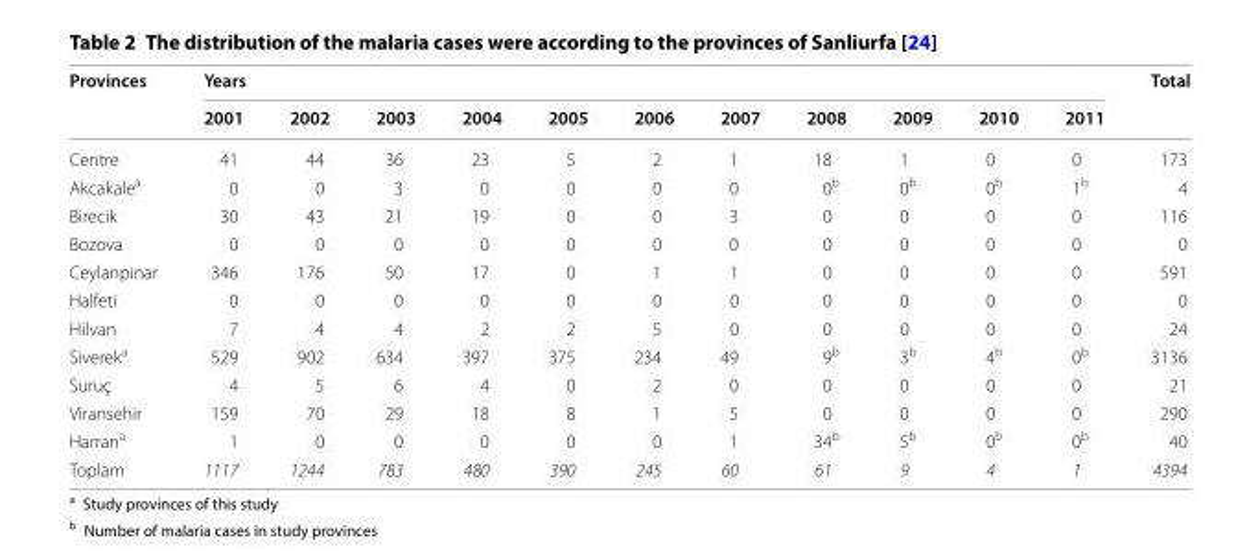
<table><thead><tr><td rowspan="2">Provinces</td><td colspan="11">Years</td><td rowspan="2">Total</td></tr><tr><td>2001</td><td>2002</td><td>2003</td><td>2004</td><td>2005</td><td>2006</td><td>2007</td><td>2008</td><td>2009</td><td>2010</td><td>2011</td></tr></thead><tbody><tr><td>Centre</td><td>41</td><td>44</td><td>36</td><td>23</td><td>5</td><td>2</td><td>1</td><td>18</td><td>1</td><td>0</td><td>0</td><td>173</td></tr><tr><td>Akcakale<sup>a</sup></td><td>0</td><td>0</td><td>3</td><td>0</td><td>0</td><td>0</td><td>0</td><td>0<sup>b</sup></td><td>0<sup>b</sup></td><td>0<sup>b</sup></td><td>1<sup>b</sup></td><td>4</td></tr><tr><td>Birecik</td><td>30</td><td>43</td><td>21</td><td>19</td><td>0</td><td>0</td><td>3</td><td>0</td><td>0</td><td>0</td><td>0</td><td>116</td></tr><tr><td>Bozova</td><td>0</td><td>0</td><td>0</td><td>0</td><td>0</td><td>0</td><td>0</td><td>0</td><td>0</td><td>0</td><td>0</td><td>0</td></tr><tr><td>Ceylanpinar</td><td>346</td><td>176</td><td>50</td><td>17</td><td>0</td><td>1</td><td>1</td><td>0</td><td>0</td><td>0</td><td>0</td><td>591</td></tr><tr><td>Halfeti</td><td>0</td><td>0</td><td>0</td><td>0</td><td>0</td><td>0</td><td>0</td><td>0</td><td>0</td><td>0</td><td>0</td><td>0</td></tr><tr><td>Hilvan</td><td>7</td><td>4</td><td>4</td><td>2</td><td>2</td><td>5</td><td>0</td><td>0</td><td>0</td><td>0</td><td>0</td><td>24</td></tr><tr><td>Siverek<sup>a</sup></td><td>529</td><td>902</td><td>634</td><td>397</td><td>375</td><td>234</td><td>49</td><td>9<sup>b</sup></td><td>3<sup>b</sup></td><td>4<sup>b</sup></td><td>0<sup>b</sup></td><td>3136</td></tr><tr><td>Suruç</td><td>4</td><td>5</td><td>6</td><td>4</td><td>0</td><td>2</td><td>0</td><td>0</td><td>0</td><td>0</td><td>0</td><td>21</td></tr><tr><td>Viransehir</td><td>159</td><td>70</td><td>29</td><td>18</td><td>8</td><td>1</td><td>5</td><td>0</td><td>0</td><td>0</td><td>0</td><td>290</td></tr><tr><td>Harran<sup>a</sup></td><td>1</td><td>0</td><td>0</td><td>0</td><td>0</td><td>0</td><td>1</td><td>34<sup>b</sup></td><td>5<sup>b</sup></td><td>0<sup>b</sup></td><td>0<sup>b</sup></td><td>40</td></tr><tr><td>Toplam</td><td>1117</td><td>1244</td><td>783</td><td>480</td><td>390</td><td>245</td><td>60</td><td>61</td><td>9</td><td>4</td><td>1</td><td>4394</td></tr></tbody></table>